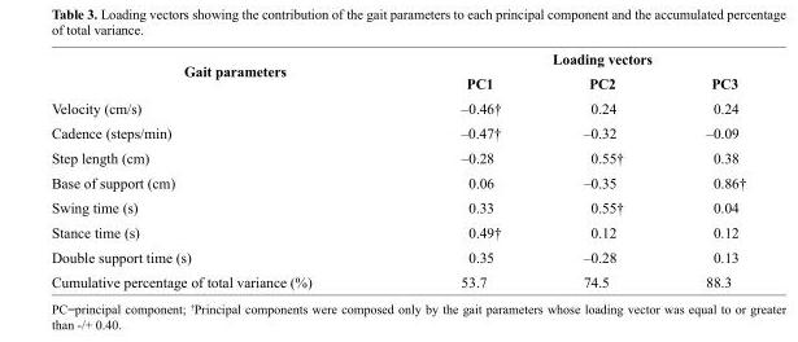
<table><thead><tr><td rowspan="2">Gait parameters</td><td colspan="3">Loading vectors</td></tr><tr><td>PC1</td><td>PC2</td><td>PC3</td></tr></thead><tbody><tr><td>Velocity (cm/s)</td><td>–0.46<sup>†</sup></td><td>0.24</td><td>0.24</td></tr><tr><td>Cadence (steps/min)</td><td>–0.47<sup>†</sup></td><td>–0.32</td><td>–0.09</td></tr><tr><td>Step length (cm)</td><td>–0.28</td><td>0.55<sup>†</sup></td><td>0.38</td></tr><tr><td>Base of support (cm)</td><td>0.06</td><td>–0.35</td><td>0.86<sup>†</sup></td></tr><tr><td>Swing time (s)</td><td>0.33</td><td>0.55<sup>†</sup></td><td>0.04</td></tr><tr><td>Stance time (s)</td><td>0.49<sup>†</sup></td><td>0.12</td><td>0.12</td></tr><tr><td>Double support time (s)</td><td>0.35</td><td>–0.28</td><td>0.13</td></tr><tr><td>Cumulative percentage of total variance (%)</td><td>53.7</td><td>74.5</td><td>88.3</td></tr></tbody></table>